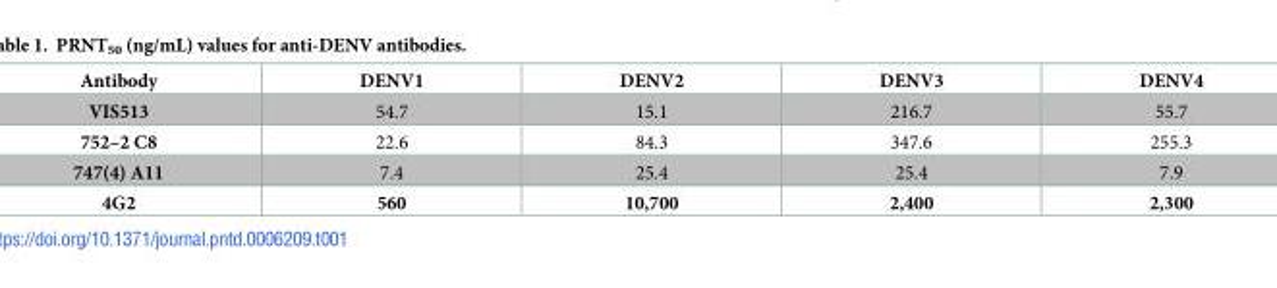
<table><thead><tr><td>Antibody</td><td>DENV1</td><td>DENV2</td><td>DENV3</td><td>DENV4</td></tr></thead><tbody><tr><td>VIS513</td><td>54.7</td><td>15.1</td><td>216.7</td><td>55.7</td></tr><tr><td>752–2 C8</td><td>22.6</td><td>84.3</td><td>347.6</td><td>255.3</td></tr><tr><td>747(4) A11</td><td>7.4</td><td>25.4</td><td>25.4</td><td>7.9</td></tr><tr><td>4G2</td><td>560</td><td>10,700</td><td>2,400</td><td>2,300</td></tr></tbody></table>